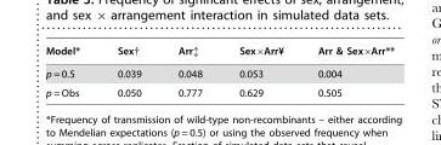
<table><thead><tr><td>Model*</td><td>Sex†</td><td>Arr‡</td><td>Sex×Arr¥</td><td>Arr &amp; Sex×Arr**</td></tr></thead><tbody><tr><td>p = 0.5</td><td>0.039</td><td>0.048</td><td>0.053</td><td>0.004</td></tr><tr><td>p = Obs</td><td>0.050</td><td>0.777</td><td>0.629</td><td>0.505</td></tr></tbody></table>